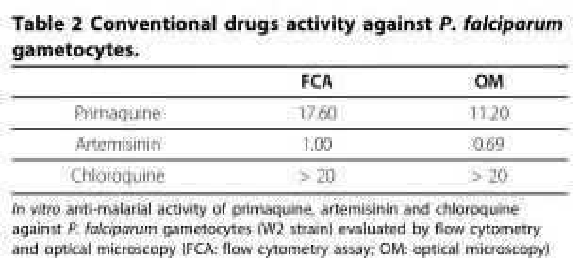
<table><thead><tr><td></td><td>FCA</td><td>OM</td></tr></thead><tbody><tr><td>Primaquine</td><td>17.60</td><td>11.20</td></tr><tr><td>Artemisinin</td><td>1.00</td><td>0.69</td></tr><tr><td>Chloroquine</td><td>&gt; 20</td><td>&gt; 20</td></tr></tbody></table>